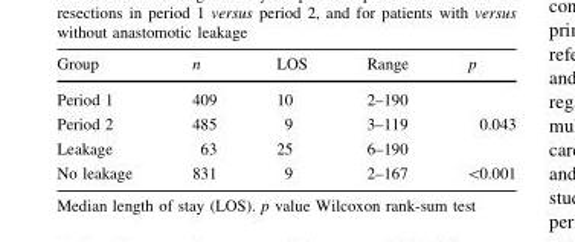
<table><thead><tr><td>Group</td><td>n</td><td>LOS</td><td>Range</td><td>p</td></tr></thead><tbody><tr><td>Period 1</td><td>409</td><td>10</td><td>2–190</td><td></td></tr><tr><td>Period 2</td><td>485</td><td>9</td><td>3–119</td><td>0.043</td></tr><tr><td>Leakage</td><td>63</td><td>25</td><td>6–190</td><td></td></tr><tr><td>No leakage</td><td>831</td><td>9</td><td>2–167</td><td>&lt;0.001</td></tr></tbody></table>